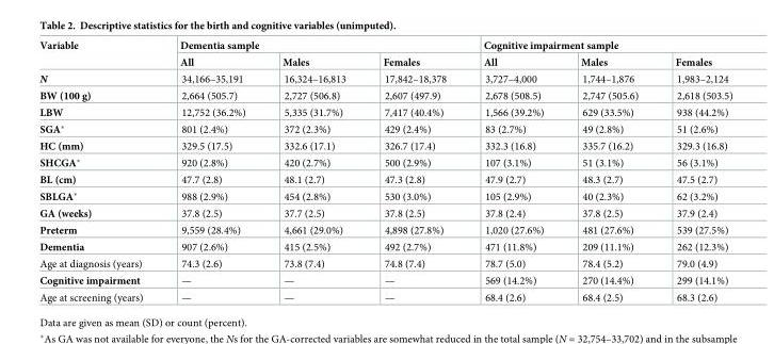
<table><thead><tr><td rowspan="2">Variable</td><td colspan="3">Dementia sample</td><td colspan="3">Cognitive impairment sample</td></tr><tr><td>All</td><td>Males</td><td>Females</td><td>All</td><td>Males</td><td>Females</td></tr></thead><tbody><tr><td>N</td><td>34,166–35,191</td><td>16,324–16,813</td><td>17,842–18,378</td><td>3,727–4,000</td><td>1,744–1,876</td><td>1,983–2,124</td></tr><tr><td>BW (100 g)</td><td>2,664 (505.7)</td><td>2,727 (506.8)</td><td>2,607 (497.9)</td><td>2,678 (508.5)</td><td>2,747 (505.6)</td><td>2,618 (503.5)</td></tr><tr><td>LBW</td><td>12,752 (36.2%)</td><td>5,335 (31.7%)</td><td>7,417 (40.4%)</td><td>1,566 (39.2%)</td><td>629 (33.5%)</td><td>938 (44.2%)</td></tr><tr><td>SGA*</td><td>801 (2.4%)</td><td>372 (2.3%)</td><td>429 (2.4%)</td><td>83 (2.7%)</td><td>49 (2.8%)</td><td>51 (2.6%)</td></tr><tr><td>HC (mm)</td><td>329.5 (17.5)</td><td>332.6 (17.1)</td><td>326.7 (17.4)</td><td>332.3 (16.8)</td><td>335.7 (16.2)</td><td>329.3 (16.8)</td></tr><tr><td>SHCGA*</td><td>920 (2.8%)</td><td>420 (2.7%)</td><td>500 (2.9%)</td><td>107 (3.1%)</td><td>51 (3.1%)</td><td>56 (3.1%)</td></tr><tr><td>BL (cm)</td><td>47.7 (2.8)</td><td>48.1 (2.7)</td><td>47.3 (2.8)</td><td>47.9 (2.7)</td><td>48.3 (2.7)</td><td>47.5 (2.7)</td></tr><tr><td>SBLGA*</td><td>988 (2.9%)</td><td>454 (2.8%)</td><td>530 (3.0%)</td><td>105 (2.9%)</td><td>40 (2.3%)</td><td>62 (3.2%)</td></tr><tr><td>GA (weeks)</td><td>37.8 (2.5)</td><td>37.7 (2.5)</td><td>37.8 (2.5)</td><td>37.8 (2.4)</td><td>37.8 (2.5)</td><td>37.9 (2.4)</td></tr><tr><td>Preterm</td><td>9,559 (28.4%)</td><td>4,661 (29.0%)</td><td>4,898 (27.8%)</td><td>1,020 (27.6%)</td><td>481 (27.6%)</td><td>539 (27.5%)</td></tr><tr><td>Dementia</td><td>907 (2.6%)</td><td>415 (2.5%)</td><td>492 (2.7%)</td><td>471 (11.8%)</td><td>209 (11.1%)</td><td>262 (12.3%)</td></tr><tr><td>Age at diagnosis (years)</td><td>74.3 (2.6)</td><td>73.8 (7.4)</td><td>74.8 (7.4)</td><td>78.7 (5.0)</td><td>78.4 (5.2)</td><td>79.0 (4.9)</td></tr><tr><td>Cognitive impairment</td><td>—</td><td>—</td><td>—</td><td>569 (14.2%)</td><td>270 (14.4%)</td><td>299 (14.1%)</td></tr><tr><td>Age at screening (years)</td><td>—</td><td>—</td><td>—</td><td>68.4 (2.6)</td><td>68.4 (2.5)</td><td>68.3 (2.6)</td></tr></tbody></table>